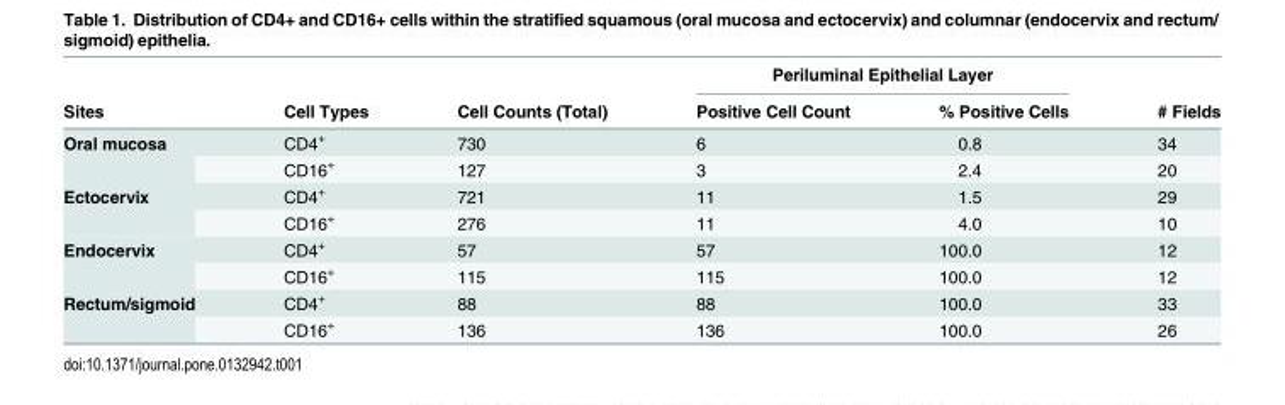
<table><thead><tr><td rowspan="2">Sites</td><td rowspan="2">Cell Types</td><td rowspan="2">Cell Counts (Total)</td><td colspan="2">Periluminal Epithelial Layer</td><td rowspan="2"># Fields</td></tr><tr><td>Positive Cell Count</td><td>% Positive Cells</td></tr></thead><tbody><tr><td rowspan="2">Oral mucosa</td><td>CD4<sup>+</sup></td><td>730</td><td>6</td><td>0.8</td><td>34</td></tr><tr><td>CD16<sup>+</sup></td><td>127</td><td>3</td><td>2.4</td><td>20</td></tr><tr><td rowspan="2">Ectocervix</td><td>CD4<sup>+</sup></td><td>721</td><td>11</td><td>1.5</td><td>29</td></tr><tr><td>CD16<sup>+</sup></td><td>276</td><td>11</td><td>4.0</td><td>10</td></tr><tr><td rowspan="2">Endocervix</td><td>CD4<sup>+</sup></td><td>57</td><td>57</td><td>100.0</td><td>12</td></tr><tr><td>CD16<sup>+</sup></td><td>115</td><td>115</td><td>100.0</td><td>12</td></tr><tr><td rowspan="2">Rectum/sigmoid</td><td>CD4<sup>+</sup></td><td>88</td><td>88</td><td>100.0</td><td>33</td></tr><tr><td>CD16<sup>+</sup></td><td>136</td><td>136</td><td>100.0</td><td>26</td></tr></tbody></table>